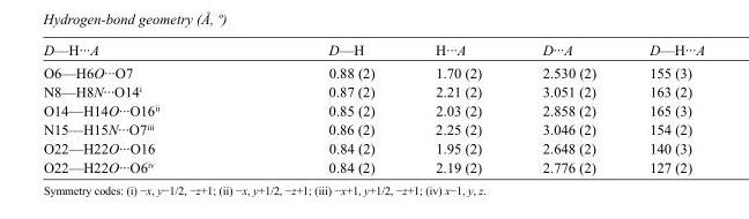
<table><tbody><tr><td>D—H···A</td><td>D—H</td><td>H···A</td><td>D···A</td><td>D—H···A</td></tr><tr><td>O6—H6O···O7</td><td>0.88 (2)</td><td>1.70 (2)</td><td>2.530 (2)</td><td>155 (3)</td></tr><tr><td>N8—H8N···O14<sup>i</sup></td><td>0.87 (2)</td><td>2.21 (2)</td><td>3.051 (2)</td><td>163 (2)</td></tr><tr><td>O14—H14O···O16<sup>ii</sup></td><td>0.85 (2)</td><td>2.03 (2)</td><td>2.858 (2)</td><td>165 (3)</td></tr><tr><td>N15—H15N···O7<sup>iii</sup></td><td>0.86 (2)</td><td>2.25 (2)</td><td>3.046 (2)</td><td>154 (2)</td></tr><tr><td>O22—H22O···O16</td><td>0.84 (2)</td><td>1.95 (2)</td><td>2.648 (2)</td><td>140 (3)</td></tr><tr><td>O22—H22O···O6<sup>iv</sup></td><td>0.84 (2)</td><td>2.19 (2)</td><td>2.776 (2)</td><td>127 (2)</td></tr></tbody></table>